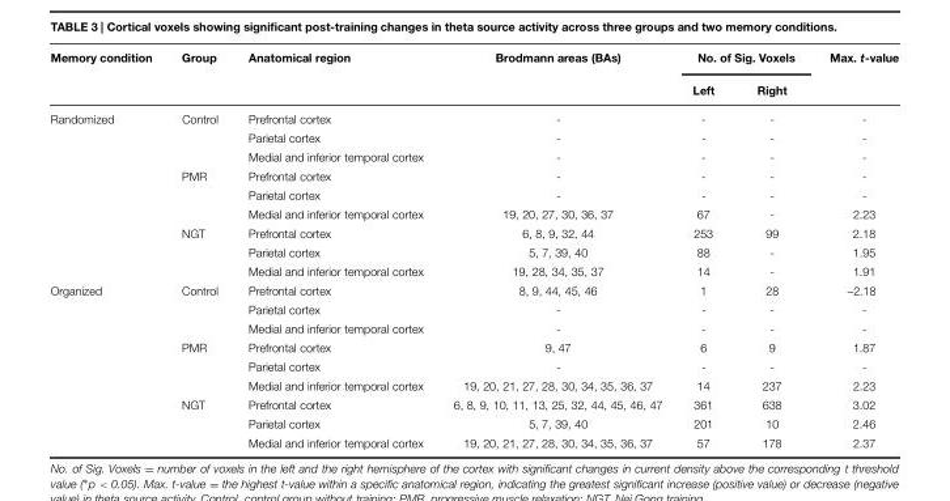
<table><thead><tr><td rowspan="2">Memory condition</td><td rowspan="2">Group</td><td rowspan="2">Anatomical region</td><td rowspan="2">Brodmann areas (BAs)</td><td colspan="2">No. of Sig. Voxels</td><td rowspan="2">Max. t-value</td></tr><tr><td>Left</td><td>Right</td></tr></thead><tbody><tr><td rowspan="9">Randomized</td><td>Control</td><td>Prefrontal cortex</td><td>-</td><td>-</td><td>-</td><td>-</td></tr><tr><td></td><td>Parietal cortex</td><td>-</td><td>-</td><td>-</td><td>-</td></tr><tr><td></td><td>Medial and inferior temporal cortex</td><td>-</td><td>-</td><td>-</td><td>-</td></tr><tr><td>PMR</td><td>Prefrontal cortex</td><td>-</td><td>-</td><td>-</td><td>-</td></tr><tr><td></td><td>Parietal cortex</td><td>-</td><td>-</td><td>-</td><td>-</td></tr><tr><td></td><td>Medial and inferior temporal cortex</td><td>19, 20, 27, 30, 36, 37</td><td>67</td><td>-</td><td>2.23</td></tr><tr><td>NGT</td><td>Prefrontal cortex</td><td>6, 8, 9, 32, 44</td><td>253</td><td>99</td><td>2.18</td></tr><tr><td></td><td>Parietal cortex</td><td>5, 7, 39, 40</td><td>88</td><td>-</td><td>1.95</td></tr><tr><td></td><td>Medial and inferior temporal cortex</td><td>19, 28, 34, 35, 37</td><td>14</td><td>-</td><td>1.91</td></tr><tr><td rowspan="9">Organized</td><td>Control</td><td>Prefrontal cortex</td><td>8, 9, 44, 45, 46</td><td>1</td><td>28</td><td>–2.18</td></tr><tr><td></td><td>Parietal cortex</td><td>-</td><td>-</td><td>-</td><td>-</td></tr><tr><td></td><td>Medial and inferior temporal cortex</td><td>-</td><td>-</td><td>-</td><td>-</td></tr><tr><td>PMR</td><td>Prefrontal cortex</td><td>9, 47</td><td>6</td><td>9</td><td>1.87</td></tr><tr><td></td><td>Parietal cortex</td><td>-</td><td>-</td><td>-</td><td>-</td></tr><tr><td></td><td>Medial and inferior temporal cortex</td><td>19, 20, 21, 27, 28, 30, 34, 35, 36, 37</td><td>14</td><td>237</td><td>2.23</td></tr><tr><td>NGT</td><td>Prefrontal cortex</td><td>6, 8, 9, 10, 11, 13, 25, 32, 44, 45, 46, 47</td><td>361</td><td>638</td><td>3.02</td></tr><tr><td></td><td>Parietal cortex</td><td>5, 7, 39, 40</td><td>201</td><td>10</td><td>2.46</td></tr><tr><td></td><td>Medial and inferior temporal cortex</td><td>19, 20, 21, 27, 28, 30, 34, 35, 36, 37</td><td>57</td><td>178</td><td>2.37</td></tr></tbody></table>